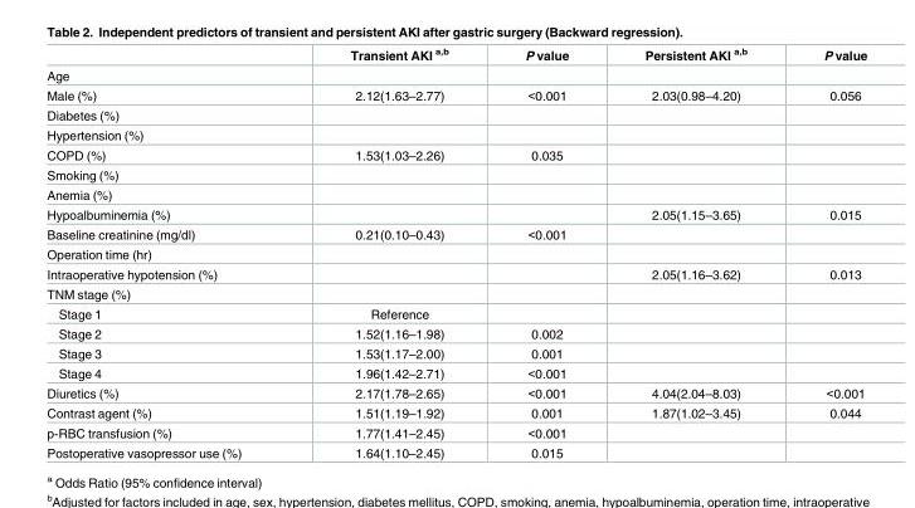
<table><thead><tr><td></td><td>Transient AKI <sup>a,b</sup></td><td>P value</td><td>Persistent AKI <sup>a,b</sup></td><td>P value</td></tr></thead><tbody><tr><td colspan="5">Age</td></tr><tr><td>Male (%)</td><td>2.12(1.63–2.77)</td><td>&lt;0.001</td><td>2.03(0.98–4.20)</td><td>0.056</td></tr><tr><td colspan="5">Diabetes (%)</td></tr><tr><td colspan="5">Hypertension (%)</td></tr><tr><td>COPD (%)</td><td>1.53(1.03–2.26)</td><td>0.035</td><td></td><td></td></tr><tr><td colspan="5">Smoking (%)</td></tr><tr><td colspan="5">Anemia (%)</td></tr><tr><td>Hypoalbuminemia (%)</td><td></td><td></td><td>2.05(1.15–3.65)</td><td>0.015</td></tr><tr><td>Baseline creatinine (mg/dl)</td><td>0.21(0.10–0.43)</td><td>&lt;0.001</td><td></td><td></td></tr><tr><td colspan="5">Operation time (hr)</td></tr><tr><td>Intraoperative hypotension (%)</td><td></td><td></td><td>2.05(1.16–3.62)</td><td>0.013</td></tr><tr><td colspan="5">TNM stage (%)</td></tr><tr><td>Stage 1</td><td>Reference</td><td></td><td></td><td></td></tr><tr><td>Stage 2</td><td>1.52(1.16–1.98)</td><td>0.002</td><td></td><td></td></tr><tr><td>Stage 3</td><td>1.53(1.17–2.00)</td><td>0.001</td><td></td><td></td></tr><tr><td>Stage 4</td><td>1.96(1.42–2.71)</td><td>&lt;0.001</td><td></td><td></td></tr><tr><td>Diuretics (%)</td><td>2.17(1.78–2.65)</td><td>&lt;0.001</td><td>4.04(2.04–8.03)</td><td>&lt;0.001</td></tr><tr><td>Contrast agent (%)</td><td>1.51(1.19–1.92)</td><td>0.001</td><td>1.87(1.02–3.45)</td><td>0.044</td></tr><tr><td>p-RBC transfusion (%)</td><td>1.77(1.41–2.45)</td><td>&lt;0.001</td><td></td><td></td></tr><tr><td>Postoperative vasopressor use (%)</td><td>1.64(1.10–2.45)</td><td>0.015</td><td></td><td></td></tr></tbody></table>